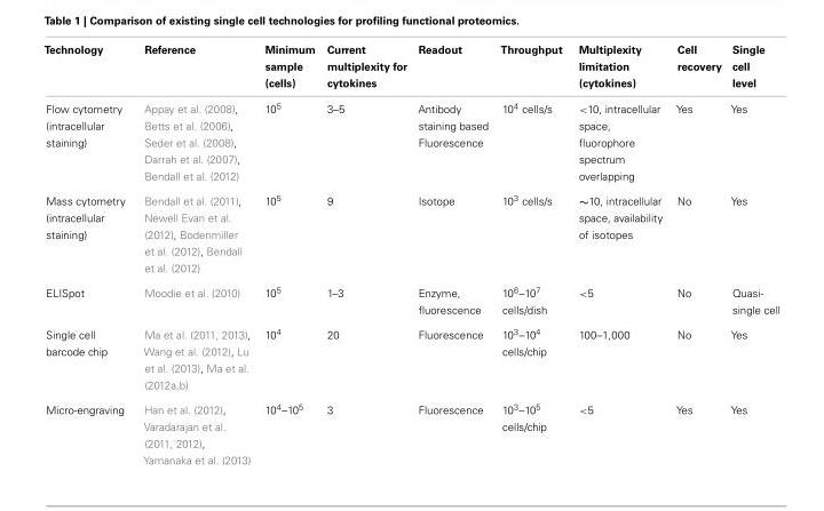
<table><thead><tr><td>Technology</td><td>Reference</td><td>Minimum sample (cells)</td><td>Current multiplexity for cytokines</td><td>Readout</td><td>Throughput</td><td>Multiplexity limitation (cytokines)</td><td>Cell recovery</td><td>Single cell level</td></tr></thead><tbody><tr><td>Flow cytometry (intracellular staining)</td><td>Appay et al. (2008), Betts et al. (2006), Seder et al. (2008), Darrah et al. (2007), Bendall et al. (2012)</td><td>10<sup>5</sup></td><td>3–5</td><td>Antibody staining based Fluorescence</td><td>10<sup>4</sup> cells/s</td><td>&lt;10, intracellular space, fluorophore spectrum overlapping</td><td>Yes</td><td>Yes</td></tr><tr><td>Mass cytometry (intracellular staining)</td><td>Bendall et al. (2011), Newell Evan et al. (2012), Bodenmiller et al. (2012), Bendall et al. (2012)</td><td>10<sup>5</sup></td><td>9</td><td>Isotope</td><td>10<sup>3</sup> cells/s</td><td>∼10, intracellular space, availability of isotopes</td><td>No</td><td>Yes</td></tr><tr><td>ELISpot</td><td>Moodie et al. (2010)</td><td>10<sup>5</sup></td><td>1–3</td><td>Enzyme, fluorescence</td><td>10<sup>6</sup>–10<sup>7</sup> cells/dish</td><td>&lt;5</td><td>No</td><td>Quasi- single cell</td></tr><tr><td>Single cell barcode chip</td><td>Ma et al. (2011, 2013), Wang et al. (2012), Lu et al. (2013), Ma et al. (2012a,b)</td><td>10<sup>4</sup></td><td>20</td><td>Fluorescence</td><td>10<sup>3</sup>–10<sup>4</sup> cells/chip</td><td>100–1,000</td><td>No</td><td>Yes</td></tr><tr><td>Micro-engraving</td><td>Han et al. (2012), Varadarajan et al. (2011, 2012), Yamanaka et al. (2013)</td><td>10<sup>4</sup>–10<sup>5</sup></td><td>3</td><td>Fluorescence</td><td>10<sup>3</sup>–10<sup>5</sup> cells/chip</td><td>&lt;5</td><td>Yes</td><td>Yes</td></tr></tbody></table>